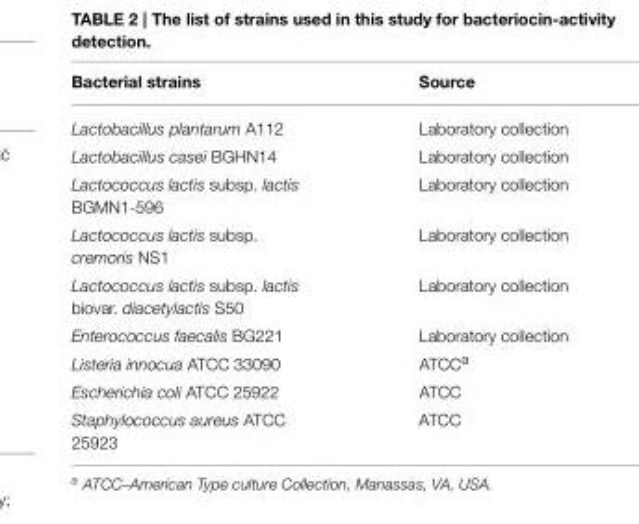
<table><thead><tr><td>Bacterial strains</td><td>Source</td></tr></thead><tbody><tr><td>Lactobacillus plantarum A112</td><td>Laboratory collection</td></tr><tr><td>Lactobacillus casei BGHN14</td><td>Laboratory collection</td></tr><tr><td>Lactococcus lactis subsp. lactis BGMN1-596</td><td>Laboratory collection</td></tr><tr><td>Lactococcus lactis subsp. cremoris NS1</td><td>Laboratory collection</td></tr><tr><td>Lactococcus lactis subsp. lactis biovar. diacetylactis S50</td><td>Laboratory collection</td></tr><tr><td>Enterococcus faecalis BG221</td><td>Laboratory collection</td></tr><tr><td>Listeria innocua ATCC 33090</td><td>ATCC<sup>a</sup></td></tr><tr><td>Escherichia coli ATCC 25922</td><td>ATCC</td></tr><tr><td>Staphylococcus aureus ATCC 25923</td><td>ATCC</td></tr></tbody></table>